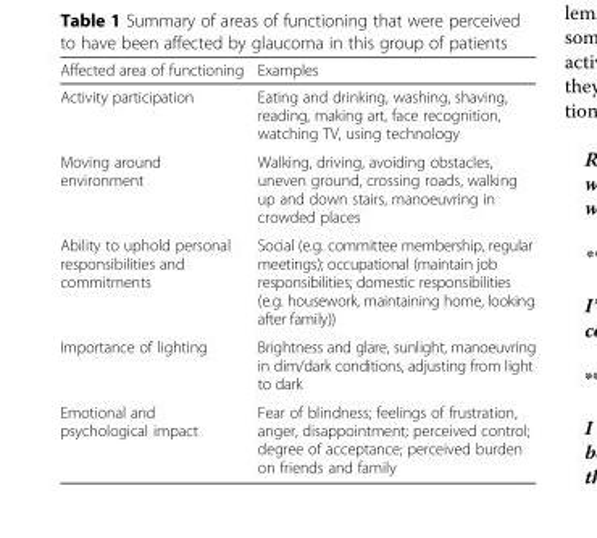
<table><thead><tr><td>Affected area of functioning</td><td>Examples</td></tr></thead><tbody><tr><td>Activity participation</td><td>Eating and drinking, washing, shaving, reading, making art, face recognition, watching TV, using technology</td></tr><tr><td>Moving around environment</td><td>Walking, driving, avoiding obstacles, uneven ground, crossing roads, walking up and down stairs, manoeuvring in crowded places</td></tr><tr><td>Ability to uphold personal responsibilities and commitments</td><td>Social (e.g. committee membership, regular meetings); occupational (maintain job responsibilities; domestic responsibilities (e.g. housework, maintaining home, looking after family))</td></tr><tr><td>Importance of lighting</td><td>Brightness and glare, sunlight, manoeuvring in dim/dark conditions, adjusting from light to dark</td></tr><tr><td>Emotional and psychological impact</td><td>Fear of blindness; feelings of frustration, anger, disappointment; perceived control; degree of acceptance; perceived burden on friends and family</td></tr></tbody></table>